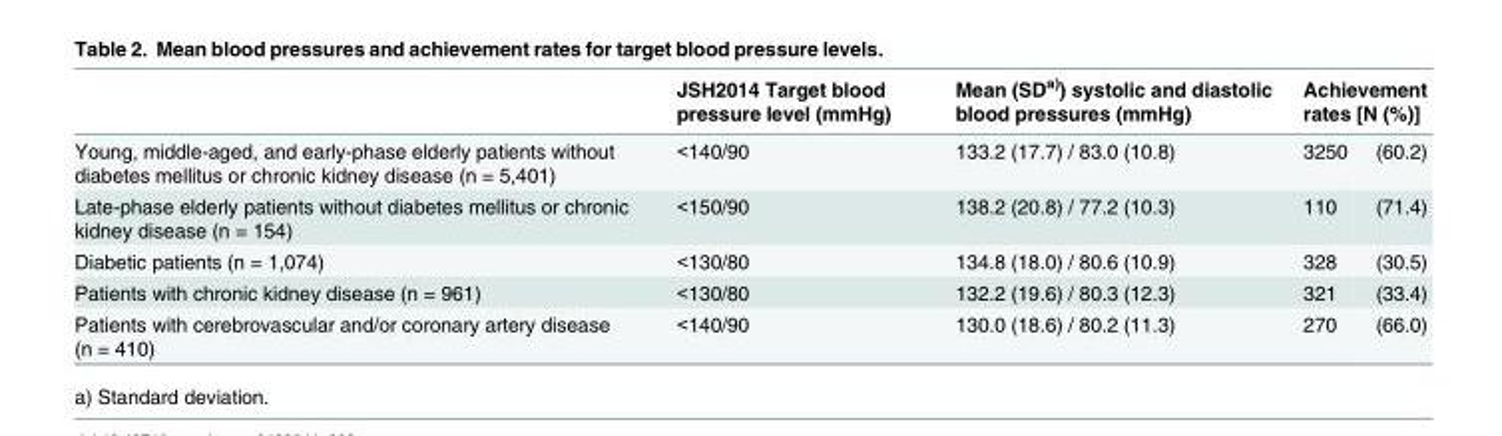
<table><thead><tr><td rowspan="2">Young, middle-aged, and early-phase elderly patients without diabetes mellitus or chronic kidney disease (n = 5,401)</td><td rowspan="2">JSH2014 Target blood pressure level (mmHg) &lt;140/90</td><td rowspan="2">Mean (SD<sup>a)</sup>) systolic and diastolic blood pressures (mmHg) 133.2 (17.7) / 83.0 (10.8)</td><td colspan="2">Achievement rates [N (%)]</td></tr><tr><td>3250</td><td>(60.2)</td></tr></thead><tbody><tr><td>Late-phase elderly patients without diabetes mellitus or chronic kidney disease (n = 154)</td><td>&lt;150/90</td><td>138.2 (20.8) / 77.2 (10.3)</td><td>110</td><td>(71.4)</td></tr><tr><td>Diabetic patients (n = 1,074)</td><td>&lt;130/80</td><td>134.8 (18.0) / 80.6 (10.9)</td><td>328</td><td>(30.5)</td></tr><tr><td>Patients with chronic kidney disease (n = 961)</td><td>&lt;130/80</td><td>132.2 (19.6) / 80.3 (12.3)</td><td>321</td><td>(33.4)</td></tr><tr><td>Patients with cerebrovascular and/or coronary artery disease (n = 410)</td><td>&lt;140/90</td><td>130.0 (18.6) / 80.2 (11.3)</td><td>270</td><td>(66.0)</td></tr></tbody></table>